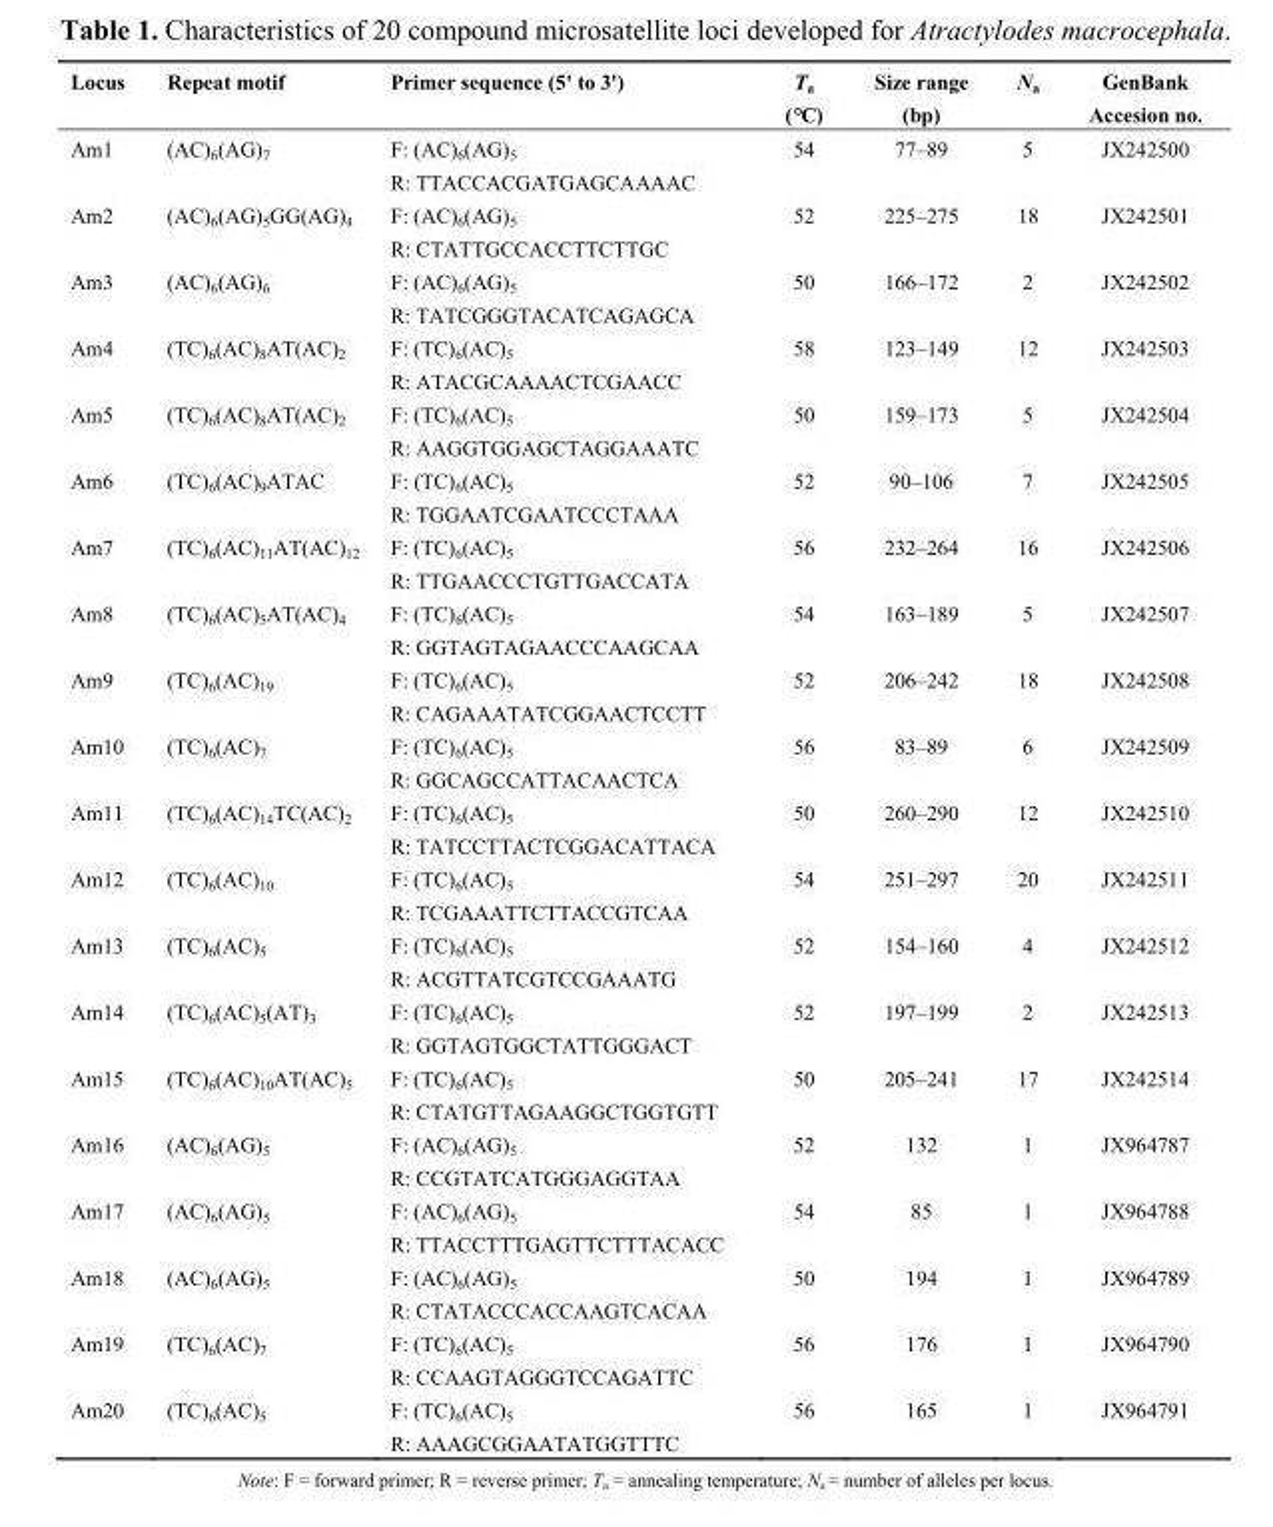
<table><thead><tr><td>Locus</td><td>Repeat motif</td><td>Primer sequence (5&#x27; to 3&#x27;)</td><td>T<sub>a</sub> (°C)</td><td>Size range (bp)</td><td>N<sub>a</sub></td><td>GenBank Accesion no.</td></tr></thead><tbody><tr><td>Am1</td><td>(AC)<sub>6</sub>(AG)<sub>7</sub></td><td>F: (AC)<sub>6</sub>(AG)<sub>5</sub> R: TTACCACGATGAGCAAAAC</td><td>54</td><td>77–89</td><td>5</td><td>JX242500</td></tr><tr><td>Am2</td><td>(AC)<sub>6</sub>(AG)<sub>5</sub>GG(AG)<sub>4</sub></td><td>F: (AC)<sub>6</sub>(AG)<sub>5</sub> R: CTATTGCCACCTTCTTGC</td><td>52</td><td>225–275</td><td>18</td><td>JX242501</td></tr><tr><td>Am3</td><td>(AC)<sub>6</sub>(AG)<sub>6</sub></td><td>F: (AC)<sub>6</sub>(AG)<sub>5</sub> R: TATCGGGTACATCAGAGCA</td><td>50</td><td>166–172</td><td>2</td><td>JX242502</td></tr><tr><td>Am4</td><td>(TC)<sub>6</sub>(AC)<sub>8</sub>AT(AC)<sub>2</sub></td><td>F: (TC)<sub>6</sub>(AC)<sub>5</sub> R: ATACGCAAAACTCGAACC</td><td>58</td><td>123–149</td><td>12</td><td>JX242503</td></tr><tr><td>Am5</td><td>(TC)<sub>6</sub>(AC)<sub>8</sub>AT(AC)<sub>2</sub></td><td>F: (TC)<sub>6</sub>(AC)<sub>5</sub> R: AAGGTGGAGCTAGGAAATC</td><td>50</td><td>159–173</td><td>5</td><td>JX242504</td></tr><tr><td>Am6</td><td>(TC)<sub>6</sub>(AC)<sub>9</sub>ATAC</td><td>F: (TC)<sub>6</sub>(AC)<sub>5</sub> R: TGGAATCGAATCCCTAAA</td><td>52</td><td>90–106</td><td>7</td><td>JX242505</td></tr><tr><td>Am7</td><td>(TC)<sub>6</sub>(AC)<sub>11</sub>AT(AC)<sub>12</sub></td><td>F: (TC)<sub>6</sub>(AC)<sub>5</sub> R: TTGAACCCTGTTGACCATA</td><td>56</td><td>232–264</td><td>16</td><td>JX242506</td></tr><tr><td>Am8</td><td>(TC)<sub>6</sub>(AC)<sub>5</sub>AT(AC)<sub>4</sub></td><td>F: (TC)<sub>6</sub>(AC)<sub>5</sub> R: GGTAGTAGAACCCAAGCAA</td><td>54</td><td>163–189</td><td>5</td><td>JX242507</td></tr><tr><td>Am9</td><td>(TC)<sub>6</sub>(AC)<sub>19</sub></td><td>F: (TC)<sub>6</sub>(AC)<sub>5</sub> R: CAGAAATATCGGAACTCCTT</td><td>52</td><td>206–242</td><td>18</td><td>JX242508</td></tr><tr><td>Am10</td><td>(TC)<sub>6</sub>(AC)<sub>7</sub></td><td>F: (TC)<sub>6</sub>(AC)<sub>5</sub> R: GGCAGCCATTACAACTCA</td><td>56</td><td>83–89</td><td>6</td><td>JX242509</td></tr><tr><td>Am11</td><td>(TC)<sub>6</sub>(AC)<sub>14</sub>TC(AC)<sub>2</sub></td><td>F: (TC)<sub>6</sub>(AC)<sub>5</sub> R: TATCCTTACTCGGACATTACA</td><td>50</td><td>260–290</td><td>12</td><td>JX242510</td></tr><tr><td>Am12</td><td>(TC)<sub>6</sub>(AC)<sub>10</sub></td><td>F: (TC)<sub>6</sub>(AC)<sub>5</sub> R: TCGAAATTCTTACCGTCAA</td><td>54</td><td>251–297</td><td>20</td><td>JX242511</td></tr><tr><td>Am13</td><td>(TC)<sub>6</sub>(AC)<sub>5</sub></td><td>F: (TC)<sub>6</sub>(AC)<sub>5</sub> R: ACGTTATCGTCCGAAATG</td><td>52</td><td>154–160</td><td>4</td><td>JX242512</td></tr><tr><td>Am14</td><td>(TC)<sub>6</sub>(AC)<sub>5</sub>(AT)<sub>3</sub></td><td>F: (TC)<sub>6</sub>(AC)<sub>5</sub> R: GGTAGTGGCTATTGGGACT</td><td>52</td><td>197–199</td><td>2</td><td>JX242513</td></tr><tr><td>Am15</td><td>(TC)<sub>6</sub>(AC)<sub>10</sub>AT(AC)<sub>5</sub></td><td>F: (TC)<sub>6</sub>(AC)<sub>5</sub> R: CTATGTTAGAAGGCTGGTGTT</td><td>50</td><td>205–241</td><td>17</td><td>JX242514</td></tr><tr><td>Am16</td><td>(AC)<sub>6</sub>(AG)<sub>5</sub></td><td>F: (AC)<sub>6</sub>(AG)<sub>5</sub> R: CCGTATCATGGGAGGTAA</td><td>52</td><td>132</td><td>1</td><td>JX964787</td></tr><tr><td>Am17</td><td>(AC)<sub>6</sub>(AG)<sub>5</sub></td><td>F: (AC)<sub>6</sub>(AG)<sub>5</sub> R: TTACCTTTGAGTTCTTTACACC</td><td>54</td><td>85</td><td>1</td><td>JX964788</td></tr><tr><td>Am18</td><td>(AC)<sub>6</sub>(AG)<sub>5</sub></td><td>F: (AC)<sub>6</sub>(AG)<sub>5</sub> R: CTATACCCACCAAGTCACAA</td><td>50</td><td>194</td><td>1</td><td>JX964789</td></tr><tr><td>Am19</td><td>(TC)<sub>6</sub>(AC)<sub>7</sub></td><td>F: (TC)<sub>6</sub>(AC)<sub>5</sub> R: CCAAGTAGGGTCCAGATTC</td><td>56</td><td>176</td><td>1</td><td>JX964790</td></tr><tr><td>Am20</td><td>(TC)<sub>6</sub>(AC)<sub>5</sub></td><td>F: (TC)<sub>6</sub>(AC)<sub>5</sub> R: AAAGCGGAATATGGTTTC</td><td>56</td><td>165</td><td>1</td><td>JX964791</td></tr></tbody></table>